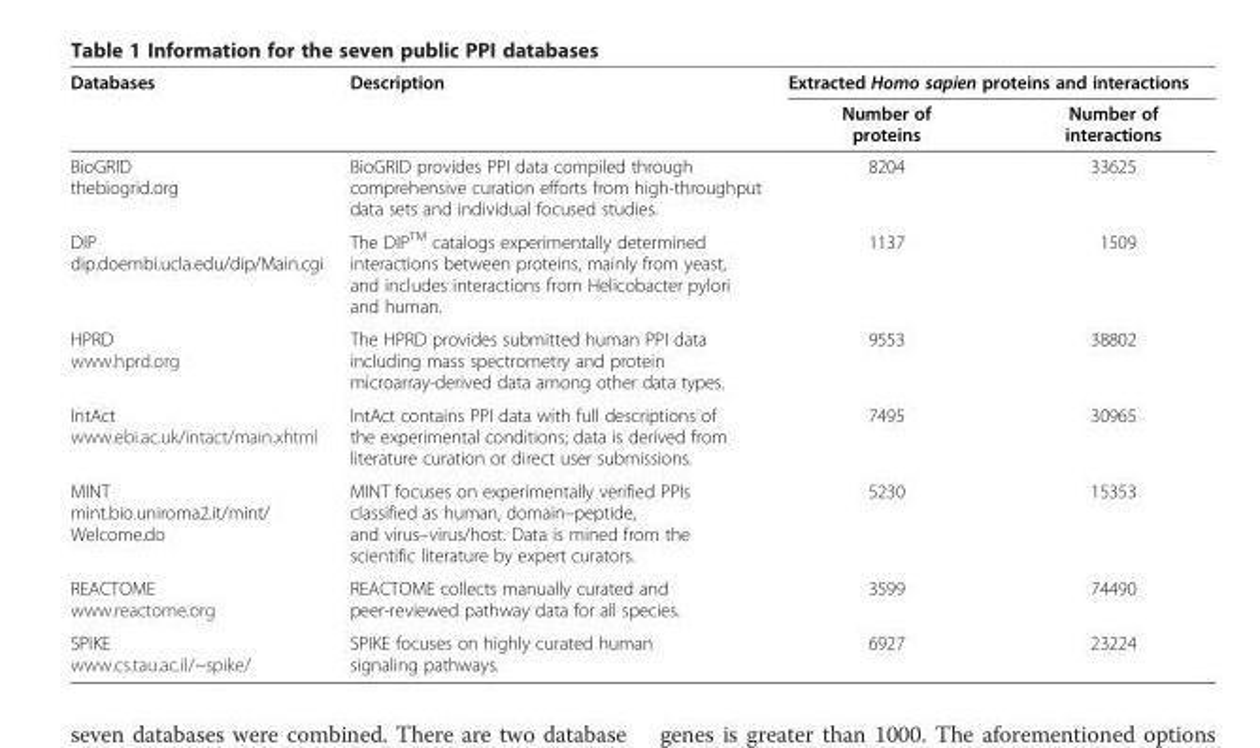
<table><thead><tr><td rowspan="2">Databases</td><td rowspan="2">Description</td><td colspan="2">Extracted Homo sapien proteins and interactions</td></tr><tr><td>Number of proteins</td><td>Number of interactions</td></tr></thead><tbody><tr><td>BioGRID thebiogrid.org</td><td>BioGRID provides PPI data compiled through comprehensive curation efforts from high-throughput data sets and individual focused studies.</td><td>8204</td><td>33625</td></tr><tr><td>DIP dip.doembi.ucla.edu/dip/Main.cgi</td><td>The DIP<sup>TM</sup> catalogs experimentally determined interactions between proteins, mainly from yeast, and includes interactions from Helicobacter pylori and human.</td><td>1137</td><td>1509</td></tr><tr><td>HPRD www.hprd.org</td><td>The HPRD provides submitted human PPI data including mass spectrometry and protein microarray-derived data among other data types.</td><td>9553</td><td>38802</td></tr><tr><td>IntAct www.ebi.ac.uk/intact/main.xhtml</td><td>IntAct contains PPI data with full descriptions of the experimental conditions; data is derived from literature curation or direct user submissions.</td><td>7495</td><td>30965</td></tr><tr><td>MINT mint.bio.uniroma2.it/mint/ Welcome.do</td><td>MINT focuses on experimentally verified PPIs classified as human, domain–peptide, and virus–virus/host. Data is mined from the scientific literature by expert curators.</td><td>5230</td><td>15353</td></tr><tr><td>REACTOME www.reactome.org</td><td>REACTOME collects manually curated and peer-reviewed pathway data for all species.</td><td>3599</td><td>74490</td></tr><tr><td>SPIKE www.cs.tau.ac.il/~spike/</td><td>SPIKE focuses on highly curated human signaling pathways.</td><td>6927</td><td>23224</td></tr></tbody></table>